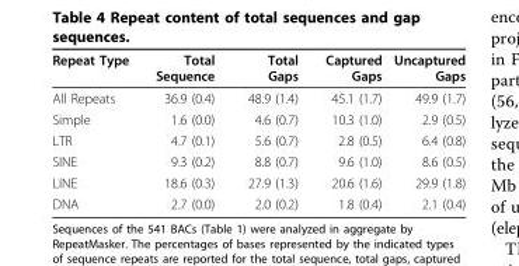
<table><thead><tr><td>Repeat Type</td><td>Total Sequence</td><td>Total Gaps</td><td>Captured Gaps</td><td>Uncaptured Gaps</td></tr></thead><tbody><tr><td>All Repeats</td><td>36.9 (0.4)</td><td>48.9 (1.4)</td><td>45.1 (1.7)</td><td>49.9 (1.7)</td></tr><tr><td>Simple</td><td>1.6 (0.0)</td><td>4.6 (0.7)</td><td>10.3 (1.0)</td><td>2.9 (0.5)</td></tr><tr><td>LTR</td><td>4.7 (0.1)</td><td>5.6 (0.7)</td><td>2.8 (0.5)</td><td>6.4 (0.8)</td></tr><tr><td>SINE</td><td>9.3 (0.2)</td><td>8.8 (0.7)</td><td>9.6 (1.0)</td><td>8.6 (0.5)</td></tr><tr><td>LINE</td><td>18.6 (0.3)</td><td>27.9 (1.3)</td><td>20.6 (1.6)</td><td>29.9 (1.8)</td></tr><tr><td>DNA</td><td>2.7 (0.0)</td><td>2.0 (0.2)</td><td>1.8 (0.4)</td><td>2.1 (0.4)</td></tr></tbody></table>